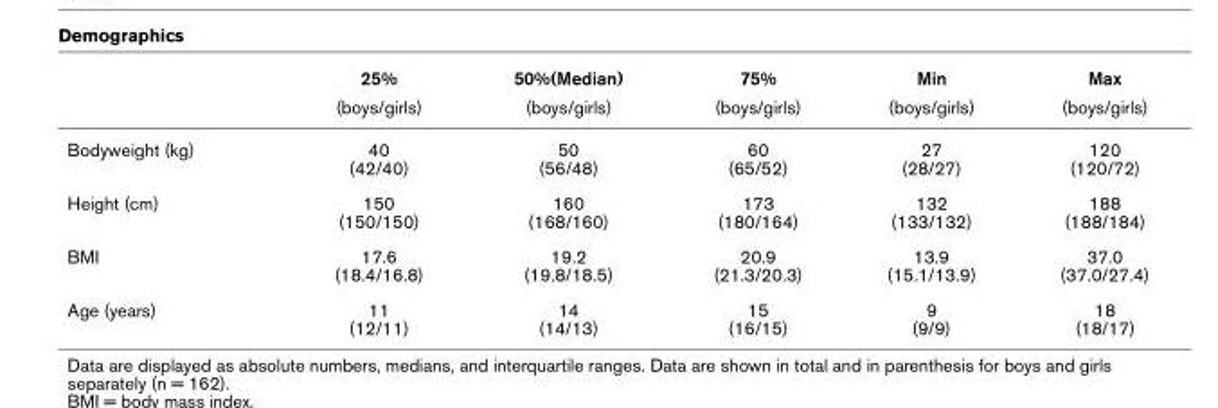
<table><thead><tr><td rowspan="2"></td><td rowspan="2">25% (boys/girls)</td><td rowspan="2">50%(Median) (boys/girls)</td><td rowspan="2">75% (boys/girls)</td><td rowspan="2">Min (boys/girls)</td><td rowspan="2">Max (boys/girls)</td></tr><tr></tr></thead><tbody><tr><td>Bodyweight (kg)</td><td>40 (42/40)</td><td>50 (56/48)</td><td>60 (65/52)</td><td>27 (28/27)</td><td>120 (120/72)</td></tr><tr><td>Height (cm)</td><td>150 (150/150)</td><td>160 (168/160)</td><td>173 (180/164)</td><td>132 (133/132)</td><td>188 (188/184)</td></tr><tr><td>BMI</td><td>17.6 (18.4/16.8)</td><td>19.2 (19.8/18.5)</td><td>20.9 (21.3/20.3)</td><td>13.9 (15.1/13.9)</td><td>37.0 (37.0/27.4)</td></tr><tr><td>Age (years)</td><td>11 (12/11)</td><td>14 (14/13)</td><td>15 (16/15)</td><td>9 (9/9)</td><td>18 (18/17)</td></tr></tbody></table>